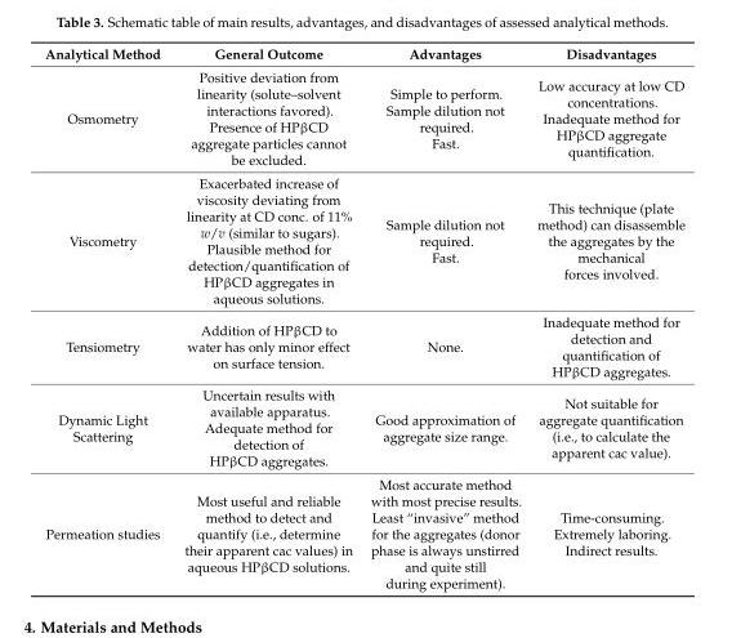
<table><thead><tr><td>Analytical Method</td><td>General Outcome</td><td>Advantages</td><td>Disadvantages</td></tr></thead><tbody><tr><td>Osmometry</td><td>Positive deviation from linearity (solute–solvent interactions favored). Presence of HPβCD aggregate particles cannot be excluded.</td><td>Simple to perform. Sample dilution not required. Fast.</td><td>Low accuracy at low CD concentrations. Inadequate method for HPβCD aggregate quantification.</td></tr><tr><td>Viscometry</td><td>Exacerbated increase of viscosity deviating from linearity at CD conc. of 11% w/v (similar to sugars). Plausible method for detection/quantification of HPβCD aggregates in aqueous solutions.</td><td>Sample dilution not required. Fast.</td><td>This technique (plate method) can disassemble the aggregates by the mechanical forces involved.</td></tr><tr><td>Tensiometry</td><td>Addition of HPβCD to water has only minor effect on surface tension.</td><td>None.</td><td>Inadequate method for detection and quantification of HPβCD aggregates.</td></tr><tr><td>Dynamic Light Scattering</td><td>Uncertain results with available apparatus. Adequate method for detection of HPβCD aggregates.</td><td>Good approximation of aggregate size range.</td><td>Not suitable for aggregate quantification (i.e., to calculate the apparent cac value).</td></tr><tr><td>Permeation studies</td><td>Most useful and reliable method to detect and quantify (i.e., determine their apparent cac values) in aqueous HPβCD solutions.</td><td>Most accurate method with most precise results. Least “invasive” method for the aggregates (donor phase is always unstirred and quite still during experiment).</td><td>Time-consuming. Extremely laboring. Indirect results.</td></tr></tbody></table>